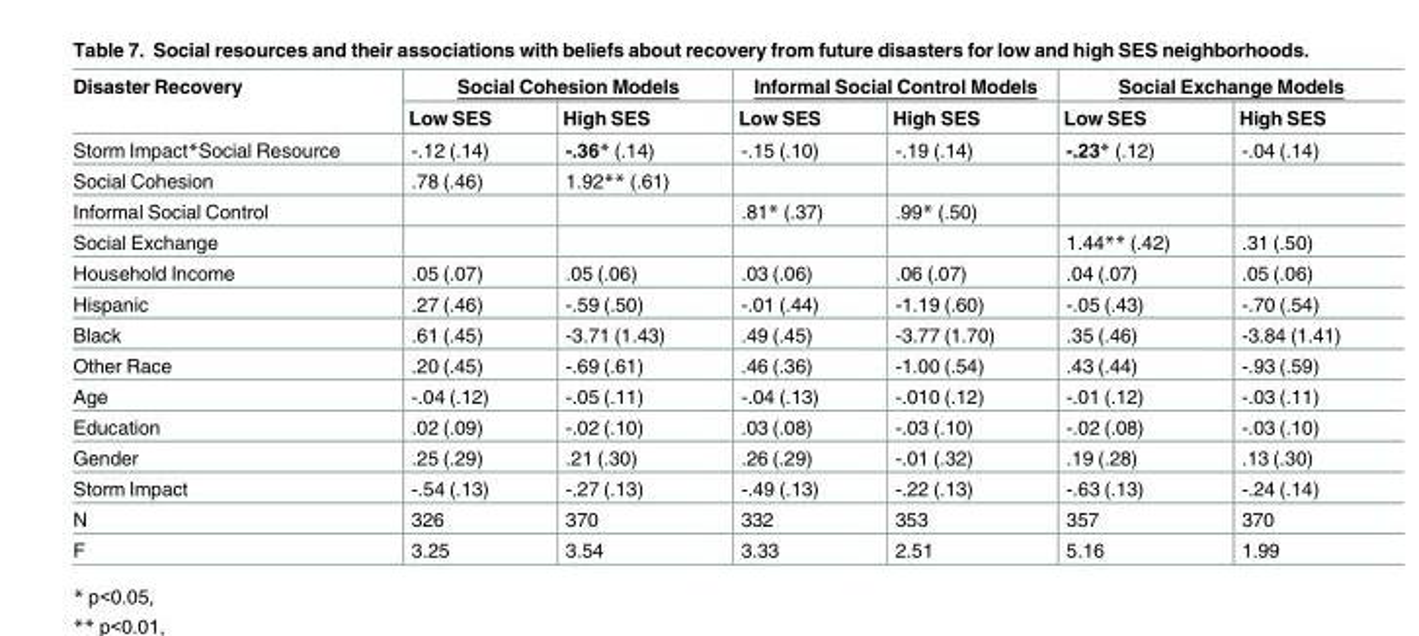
<table><thead><tr><td rowspan="2">Disaster Recovery</td><td colspan="2">Social Cohesion Models</td><td colspan="2">Informal Social Control Models</td><td colspan="2">Social Exchange Models</td></tr><tr><td>Low SES</td><td>High SES</td><td>Low SES</td><td>High SES</td><td>Low SES</td><td>High SES</td></tr></thead><tbody><tr><td>Storm Impact*Social Resource</td><td>-.12 (.14)</td><td>-.36* (.14)</td><td>-.15 (.10)</td><td>-.19 (.14)</td><td>-.23* (.12)</td><td>-.04 (.14)</td></tr><tr><td>Social Cohesion</td><td>.78 (.46)</td><td>1.92** (.61)</td><td></td><td></td><td></td><td></td></tr><tr><td>Informal Social Control</td><td></td><td></td><td>.81* (.37)</td><td>.99* (.50)</td><td></td><td></td></tr><tr><td>Social Exchange</td><td></td><td></td><td></td><td></td><td>1.44** (.42)</td><td>.31 (.50)</td></tr><tr><td>Household Income</td><td>.05 (.07)</td><td>.05 (.06)</td><td>.03 (.06)</td><td>.06 (.07)</td><td>.04 (.07)</td><td>.05 (.06)</td></tr><tr><td>Hispanic</td><td>.27 (.46)</td><td>-.59 (.50)</td><td>-.01 (.44)</td><td>-1.19 (.60)</td><td>-.05 (.43)</td><td>-.70 (.54)</td></tr><tr><td>Black</td><td>.61 (.45)</td><td>-3.71 (1.43)</td><td>.49 (.45)</td><td>-3.77 (1.70)</td><td>.35 (.46)</td><td>-3.84 (1.41)</td></tr><tr><td>Other Race</td><td>.20 (.45)</td><td>-.69 (.61)</td><td>.46 (.36)</td><td>-1.00 (.54)</td><td>.43 (.44)</td><td>-.93 (.59)</td></tr><tr><td>Age</td><td>-.04 (.12)</td><td>-.05 (.11)</td><td>-.04 (.13)</td><td>-.010 (.12)</td><td>-.01 (.12)</td><td>-.03 (.11)</td></tr><tr><td>Education</td><td>.02 (.09)</td><td>-.02 (.10)</td><td>.03 (.08)</td><td>-.03 (.10)</td><td>-.02 (.08)</td><td>-.03 (.10)</td></tr><tr><td>Gender</td><td>.25 (.29)</td><td>.21 (.30)</td><td>.26 (.29)</td><td>-.01 (.32)</td><td>.19 (.28)</td><td>.13 (.30)</td></tr><tr><td>Storm Impact</td><td>-.54 (.13)</td><td>-.27 (.13)</td><td>-.49 (.13)</td><td>-.22 (.13)</td><td>-.63 (.13)</td><td>-.24 (.14)</td></tr><tr><td>N</td><td>326</td><td>370</td><td>332</td><td>353</td><td>357</td><td>370</td></tr><tr><td>F</td><td>3.25</td><td>3.54</td><td>3.33</td><td>2.51</td><td>5.16</td><td>1.99</td></tr></tbody></table>